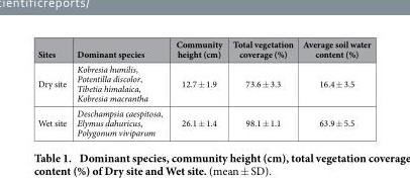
<table><thead><tr><td>Sites</td><td>Dominant species</td><td>Community height (cm)</td><td>Total vegetation coverage (%)</td><td>Average soil water content (%)</td></tr></thead><tbody><tr><td>Dry site</td><td>Kobresia humilis, Potentilla discolor, Tibetia himalaica, Kobresia macrantha</td><td>12.7 ± 1.9</td><td>73.6 ± 3.3</td><td>16.4 ± 3.5</td></tr><tr><td>Wet site</td><td>Deschampsia caespitosa, Elymus dahuricus, Polygonum viviparum</td><td>26.1 ± 1.4</td><td>98.1 ± 1.1</td><td>63.9 ± 5.5</td></tr></tbody></table>